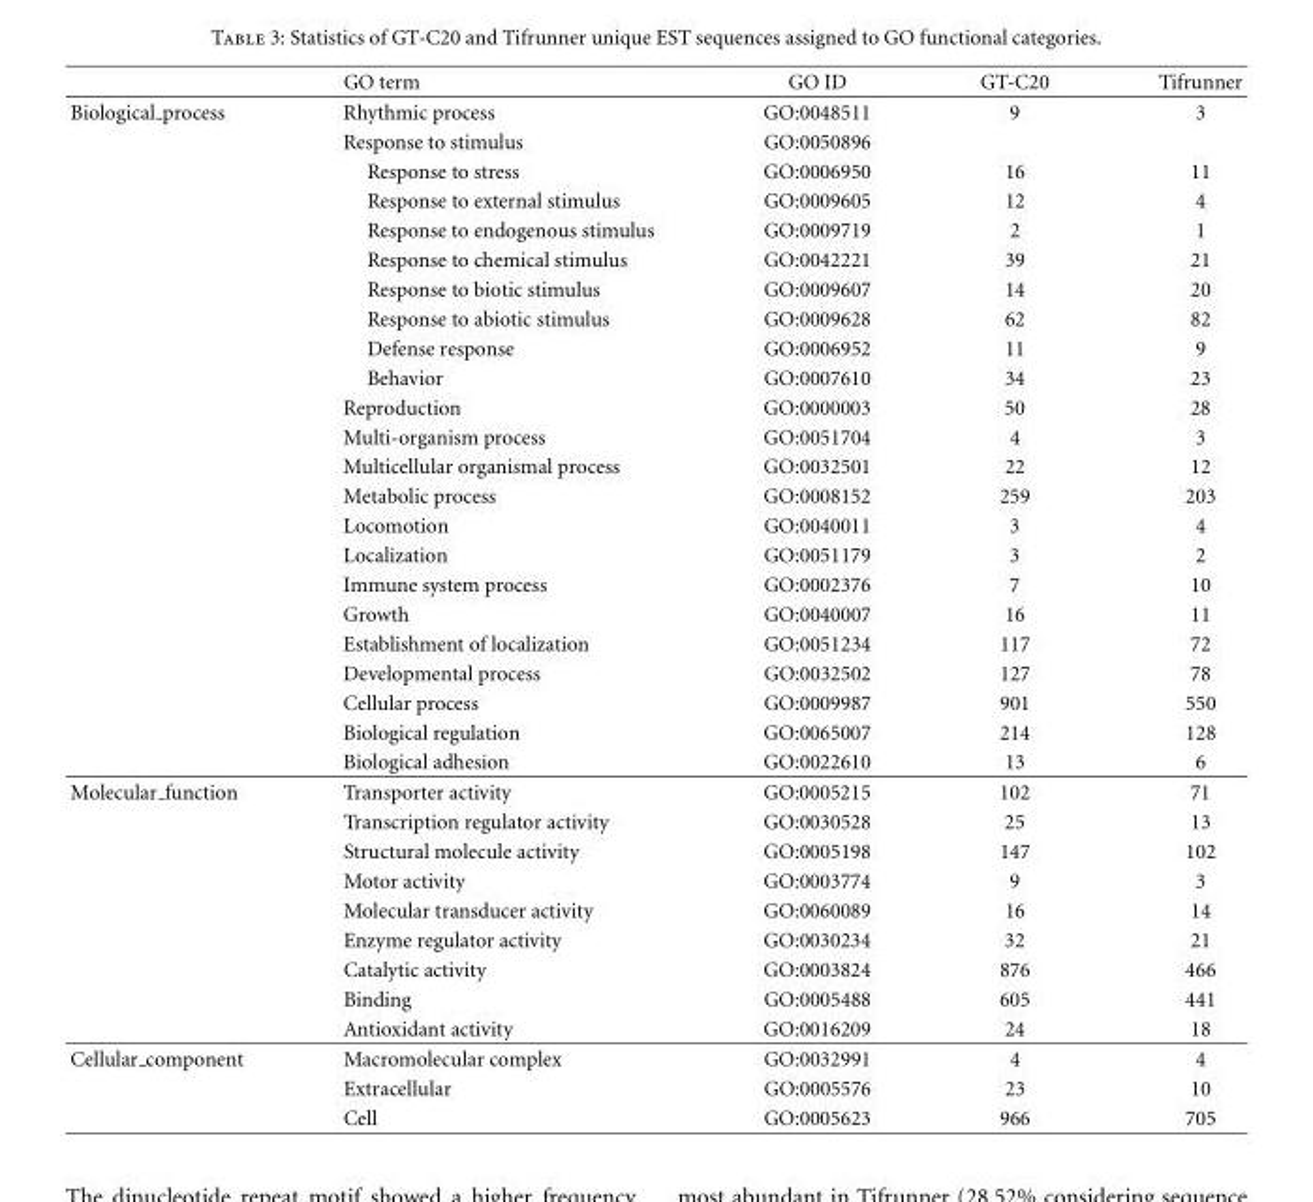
<table><thead><tr><td></td><td>GO term</td><td>GO ID</td><td>GT-C20</td><td>Tifrunner</td></tr></thead><tbody><tr><td rowspan="23">Biological process</td><td>Rhythmic process</td><td>GO:0048511</td><td>9</td><td>3</td></tr><tr><td>Response to stimulus</td><td>GO:0050896</td><td></td><td></td></tr><tr><td>Response to stress</td><td>GO:0006950</td><td>16</td><td>11</td></tr><tr><td>Response to external stimulus</td><td>GO:0009605</td><td>12</td><td>4</td></tr><tr><td>Response to endogenous stimulus</td><td>GO:0009719</td><td>2</td><td>1</td></tr><tr><td>Response to chemical stimulus</td><td>GO:0042221</td><td>39</td><td>21</td></tr><tr><td>Response to biotic stimulus</td><td>GO:0009607</td><td>14</td><td>20</td></tr><tr><td>Response to abiotic stimulus</td><td>GO:0009628</td><td>62</td><td>82</td></tr><tr><td>Defense response</td><td>GO:0006952</td><td>11</td><td>9</td></tr><tr><td>Behavior</td><td>GO:0007610</td><td>34</td><td>23</td></tr><tr><td>Reproduction</td><td>GO:0000003</td><td>50</td><td>28</td></tr><tr><td>Multi-organism process</td><td>GO:0051704</td><td>4</td><td>3</td></tr><tr><td>Multicellular organismal process</td><td>GO:0032501</td><td>22</td><td>12</td></tr><tr><td>Metabolic process</td><td>GO:0008152</td><td>259</td><td>203</td></tr><tr><td>Locomotion</td><td>GO:0040011</td><td>3</td><td>4</td></tr><tr><td>Localization</td><td>GO:0051179</td><td>3</td><td>2</td></tr><tr><td>Immune system process</td><td>GO:0002376</td><td>7</td><td>10</td></tr><tr><td>Growth</td><td>GO:0040007</td><td>16</td><td>11</td></tr><tr><td>Establishment of localization</td><td>GO:0051234</td><td>117</td><td>72</td></tr><tr><td>Developmental process</td><td>GO:0032502</td><td>127</td><td>78</td></tr><tr><td>Cellular process</td><td>GO:0009987</td><td>901</td><td>550</td></tr><tr><td>Biological regulation</td><td>GO:0065007</td><td>214</td><td>128</td></tr><tr><td>Biological adhesion</td><td>GO:0022610</td><td>13</td><td>6</td></tr><tr><td rowspan="9">Molecular function</td><td>Transporter activity</td><td>GO:0005215</td><td>102</td><td>71</td></tr><tr><td>Transcription regulator activity</td><td>GO:0030528</td><td>25</td><td>13</td></tr><tr><td>Structural molecule activity</td><td>GO:0005198</td><td>147</td><td>102</td></tr><tr><td>Motor activity</td><td>GO:0003774</td><td>9</td><td>3</td></tr><tr><td>Molecular transducer activity</td><td>GO:0060089</td><td>16</td><td>14</td></tr><tr><td>Enzyme regulator activity</td><td>GO:0030234</td><td>32</td><td>21</td></tr><tr><td>Catalytic activity</td><td>GO:0003824</td><td>876</td><td>466</td></tr><tr><td>Binding</td><td>GO:0005488</td><td>605</td><td>441</td></tr><tr><td>Antioxidant activity</td><td>GO:0016209</td><td>24</td><td>18</td></tr><tr><td rowspan="3">Cellular component</td><td>Macromolecular complex</td><td>GO:0032991</td><td>4</td><td>4</td></tr><tr><td>Extracellular</td><td>GO:0005576</td><td>23</td><td>10</td></tr><tr><td>Cell</td><td>GO:0005623</td><td>966</td><td>705</td></tr></tbody></table>